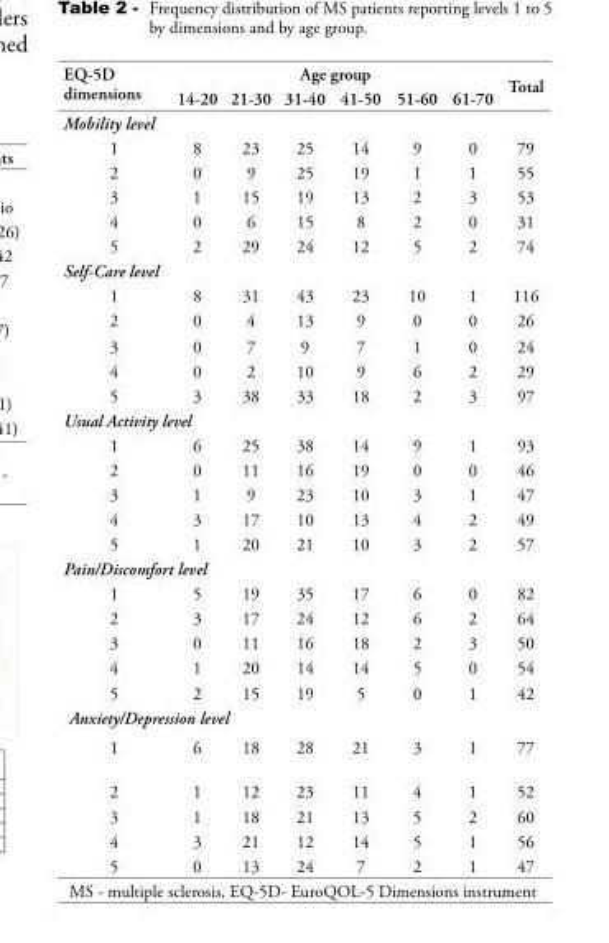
<table><thead><tr><td rowspan="2">EQ-5D dimensions</td><td colspan="6">Age group</td><td rowspan="2">Total</td></tr><tr><td>14-20</td><td>21-30</td><td>31-40</td><td>41-50</td><td>51-60</td><td>61-70</td></tr></thead><tbody><tr><td colspan="8">Mobility level</td></tr><tr><td>1</td><td>8</td><td>23</td><td>25</td><td>14</td><td>9</td><td>0</td><td>79</td></tr><tr><td>2</td><td>0</td><td>9</td><td>25</td><td>19</td><td>1</td><td>1</td><td>55</td></tr><tr><td>3</td><td>1</td><td>15</td><td>19</td><td>13</td><td>2</td><td>3</td><td>53</td></tr><tr><td>4</td><td>0</td><td>6</td><td>15</td><td>8</td><td>2</td><td>0</td><td>31</td></tr><tr><td>5</td><td>2</td><td>29</td><td>24</td><td>12</td><td>5</td><td>2</td><td>74</td></tr><tr><td colspan="8">Self-Care level</td></tr><tr><td>1</td><td>8</td><td>31</td><td>43</td><td>23</td><td>10</td><td>1</td><td>116</td></tr><tr><td>2</td><td>0</td><td>4</td><td>13</td><td>9</td><td>0</td><td>0</td><td>26</td></tr><tr><td>3</td><td>0</td><td>7</td><td>9</td><td>7</td><td>1</td><td>0</td><td>24</td></tr><tr><td>4</td><td>0</td><td>2</td><td>10</td><td>9</td><td>6</td><td>2</td><td>29</td></tr><tr><td>5</td><td>3</td><td>38</td><td>33</td><td>18</td><td>2</td><td>3</td><td>97</td></tr><tr><td colspan="8">Usual Activity level</td></tr><tr><td>1</td><td>6</td><td>25</td><td>38</td><td>14</td><td>9</td><td>1</td><td>93</td></tr><tr><td>2</td><td>0</td><td>11</td><td>16</td><td>19</td><td>0</td><td>0</td><td>46</td></tr><tr><td>3</td><td>1</td><td>9</td><td>23</td><td>10</td><td>3</td><td>1</td><td>47</td></tr><tr><td>4</td><td>3</td><td>17</td><td>10</td><td>13</td><td>4</td><td>2</td><td>49</td></tr><tr><td>5</td><td>1</td><td>20</td><td>21</td><td>10</td><td>3</td><td>2</td><td>57</td></tr><tr><td colspan="8">Pain/Discomfort level</td></tr><tr><td>1</td><td>5</td><td>19</td><td>35</td><td>17</td><td>6</td><td>0</td><td>82</td></tr><tr><td>2</td><td>3</td><td>17</td><td>24</td><td>12</td><td>6</td><td>2</td><td>64</td></tr><tr><td>3</td><td>0</td><td>11</td><td>16</td><td>18</td><td>2</td><td>3</td><td>50</td></tr><tr><td>4</td><td>1</td><td>20</td><td>14</td><td>14</td><td>5</td><td>0</td><td>54</td></tr><tr><td>5</td><td>2</td><td>15</td><td>19</td><td>5</td><td>0</td><td>1</td><td>42</td></tr><tr><td colspan="8">Anxiety/Depression level</td></tr><tr><td>1</td><td>6</td><td>18</td><td>28</td><td>21</td><td>3</td><td>1</td><td>77</td></tr><tr><td>2</td><td>1</td><td>12</td><td>23</td><td>11</td><td>4</td><td>1</td><td>52</td></tr><tr><td>3</td><td>1</td><td>18</td><td>21</td><td>13</td><td>5</td><td>2</td><td>60</td></tr><tr><td>4</td><td>3</td><td>21</td><td>12</td><td>14</td><td>5</td><td>1</td><td>56</td></tr><tr><td>5</td><td>0</td><td>13</td><td>24</td><td>7</td><td>2</td><td>1</td><td>47</td></tr></tbody></table>